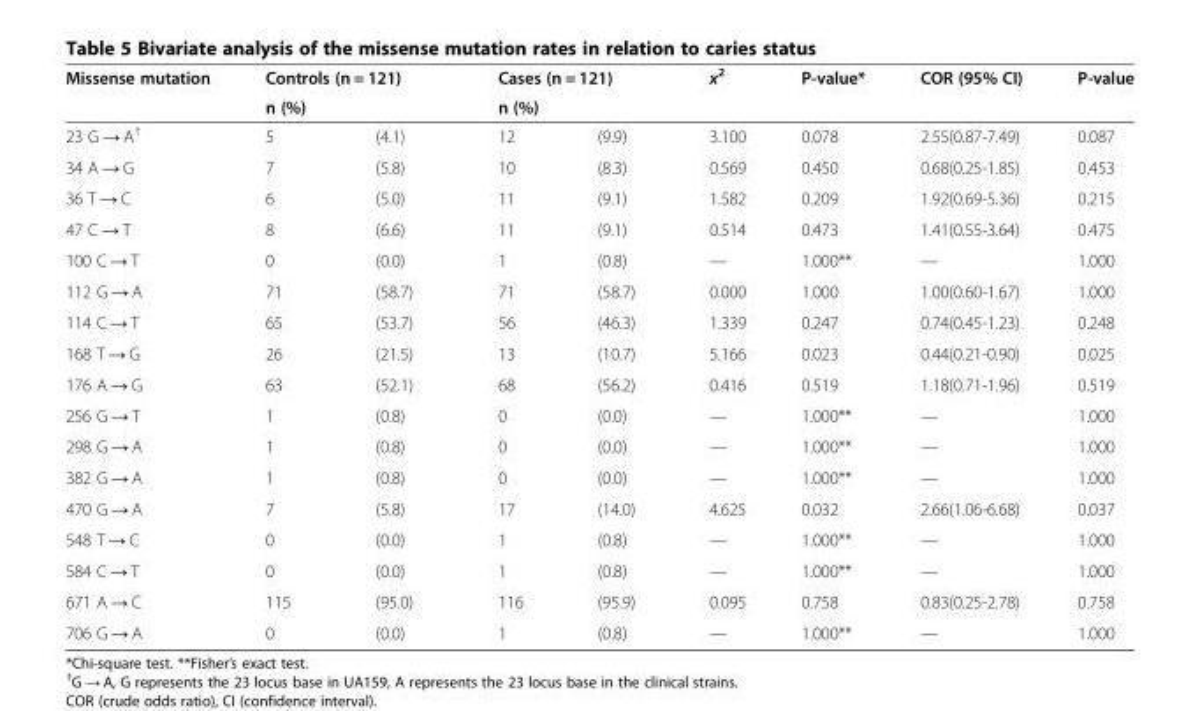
<table><thead><tr><td rowspan="3">Missense mutation 23 G → A<sup>†</sup></td><td rowspan="2" colspan="2">Controls (n = 121) n (%)</td><td rowspan="2" colspan="2">Cases (n = 121) n (%)</td><td rowspan="3">x<sup>2</sup> 3.100</td><td rowspan="3">P-value* 0.078</td><td rowspan="3">COR (95% CI) 2.55(0.87-7.49)</td><td rowspan="3">P-value 0.087</td></tr><tr></tr><tr><td>5</td><td>(4.1)</td><td>12</td><td>(9.9)</td></tr></thead><tbody><tr><td>34 A → G</td><td>7</td><td>(5.8)</td><td>10</td><td>(8.3)</td><td>0.569</td><td>0.450</td><td>0.68(0.25-1.85)</td><td>0.453</td></tr><tr><td>36 T → C</td><td>6</td><td>(5.0)</td><td>11</td><td>(9.1)</td><td>1.582</td><td>0.209</td><td>1.92(0.69-5.36)</td><td>0.215</td></tr><tr><td>47 C → T</td><td>8</td><td>(6.6)</td><td>11</td><td>(9.1)</td><td>0.514</td><td>0.473</td><td>1.41(0.55-3.64)</td><td>0.475</td></tr><tr><td>100 C → T</td><td>0</td><td>(0.0)</td><td>1</td><td>(0.8)</td><td>—</td><td>1.000**</td><td>—</td><td>1.000</td></tr><tr><td>112 G → A</td><td>71</td><td>(58.7)</td><td>71</td><td>(58.7)</td><td>0.000</td><td>1.000</td><td>1.00(0.60-1.67)</td><td>1.000</td></tr><tr><td>114 C → T</td><td>65</td><td>(53.7)</td><td>56</td><td>(46.3)</td><td>1.339</td><td>0.247</td><td>0.74(0.45-1.23)</td><td>0.248</td></tr><tr><td>168 T → G</td><td>26</td><td>(21.5)</td><td>13</td><td>(10.7)</td><td>5.166</td><td>0.023</td><td>0.44(0.21-0.90)</td><td>0.025</td></tr><tr><td>176 A → G</td><td>63</td><td>(52.1)</td><td>68</td><td>(56.2)</td><td>0.416</td><td>0.519</td><td>1.18(0.71-1.96)</td><td>0.519</td></tr><tr><td>256 G → T</td><td>1</td><td>(0.8)</td><td>0</td><td>(0.0)</td><td>—</td><td>1.000**</td><td>—</td><td>1.000</td></tr><tr><td>298 G → A</td><td>1</td><td>(0.8)</td><td>0</td><td>(0.0)</td><td>—</td><td>1.000**</td><td>—</td><td>1.000</td></tr><tr><td>382 G → A</td><td>1</td><td>(0.8)</td><td>0</td><td>(0.0)</td><td>—</td><td>1.000**</td><td>—</td><td>1.000</td></tr><tr><td>470 G → A</td><td>7</td><td>(5.8)</td><td>17</td><td>(14.0)</td><td>4.625</td><td>0.032</td><td>2.66(1.06-6.68)</td><td>0.037</td></tr><tr><td>548 T → C</td><td>0</td><td>(0.0)</td><td>1</td><td>(0.8)</td><td>—</td><td>1.000**</td><td>—</td><td>1.000</td></tr><tr><td>584 C → T</td><td>0</td><td>(0.0)</td><td>1</td><td>(0.8)</td><td>—</td><td>1.000**</td><td>—</td><td>1.000</td></tr><tr><td>671 A → C</td><td>115</td><td>(95.0)</td><td>116</td><td>(95.9)</td><td>0.095</td><td>0.758</td><td>0.83(0.25-2.78)</td><td>0.758</td></tr><tr><td>706 G → A</td><td>0</td><td>(0.0)</td><td>1</td><td>(0.8)</td><td>—</td><td>1.000**</td><td>—</td><td>1.000</td></tr></tbody></table>